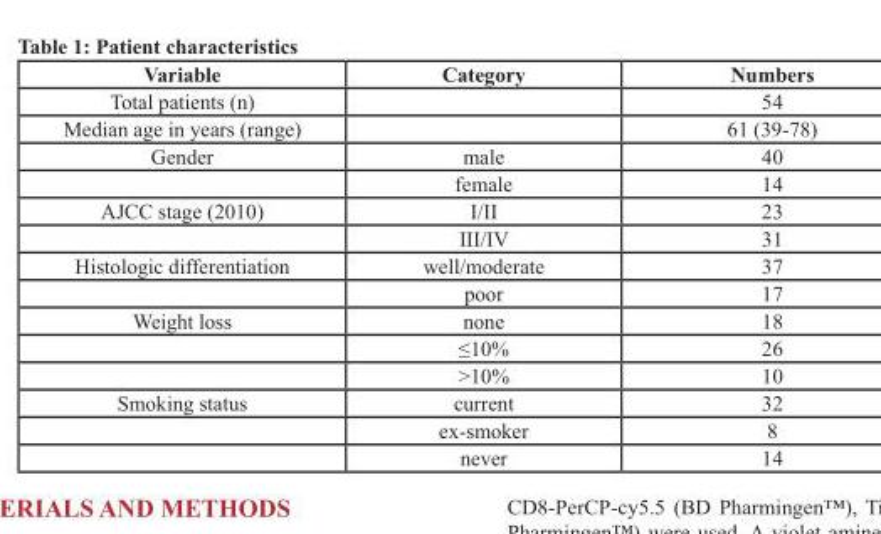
<table><thead><tr><td>Variable</td><td>Category</td><td>Numbers</td></tr></thead><tbody><tr><td>Total patients (n)</td><td></td><td>54</td></tr><tr><td>Median age in years (range)</td><td></td><td>61 (39-78)</td></tr><tr><td rowspan="2">Gender</td><td>male</td><td>40</td></tr><tr><td>female</td><td>14</td></tr><tr><td rowspan="2">AJCC stage (2010)</td><td>I/II</td><td>23</td></tr><tr><td>III/IV</td><td>31</td></tr><tr><td rowspan="2">Histologic differentiation</td><td>well/moderate</td><td>37</td></tr><tr><td>poor</td><td>17</td></tr><tr><td rowspan="3">Weight loss</td><td>none</td><td>18</td></tr><tr><td>≤10%</td><td>26</td></tr><tr><td>&gt;10%</td><td>10</td></tr><tr><td rowspan="3">Smoking status</td><td>current</td><td>32</td></tr><tr><td>ex-smoker</td><td>8</td></tr><tr><td>never</td><td>14</td></tr></tbody></table>